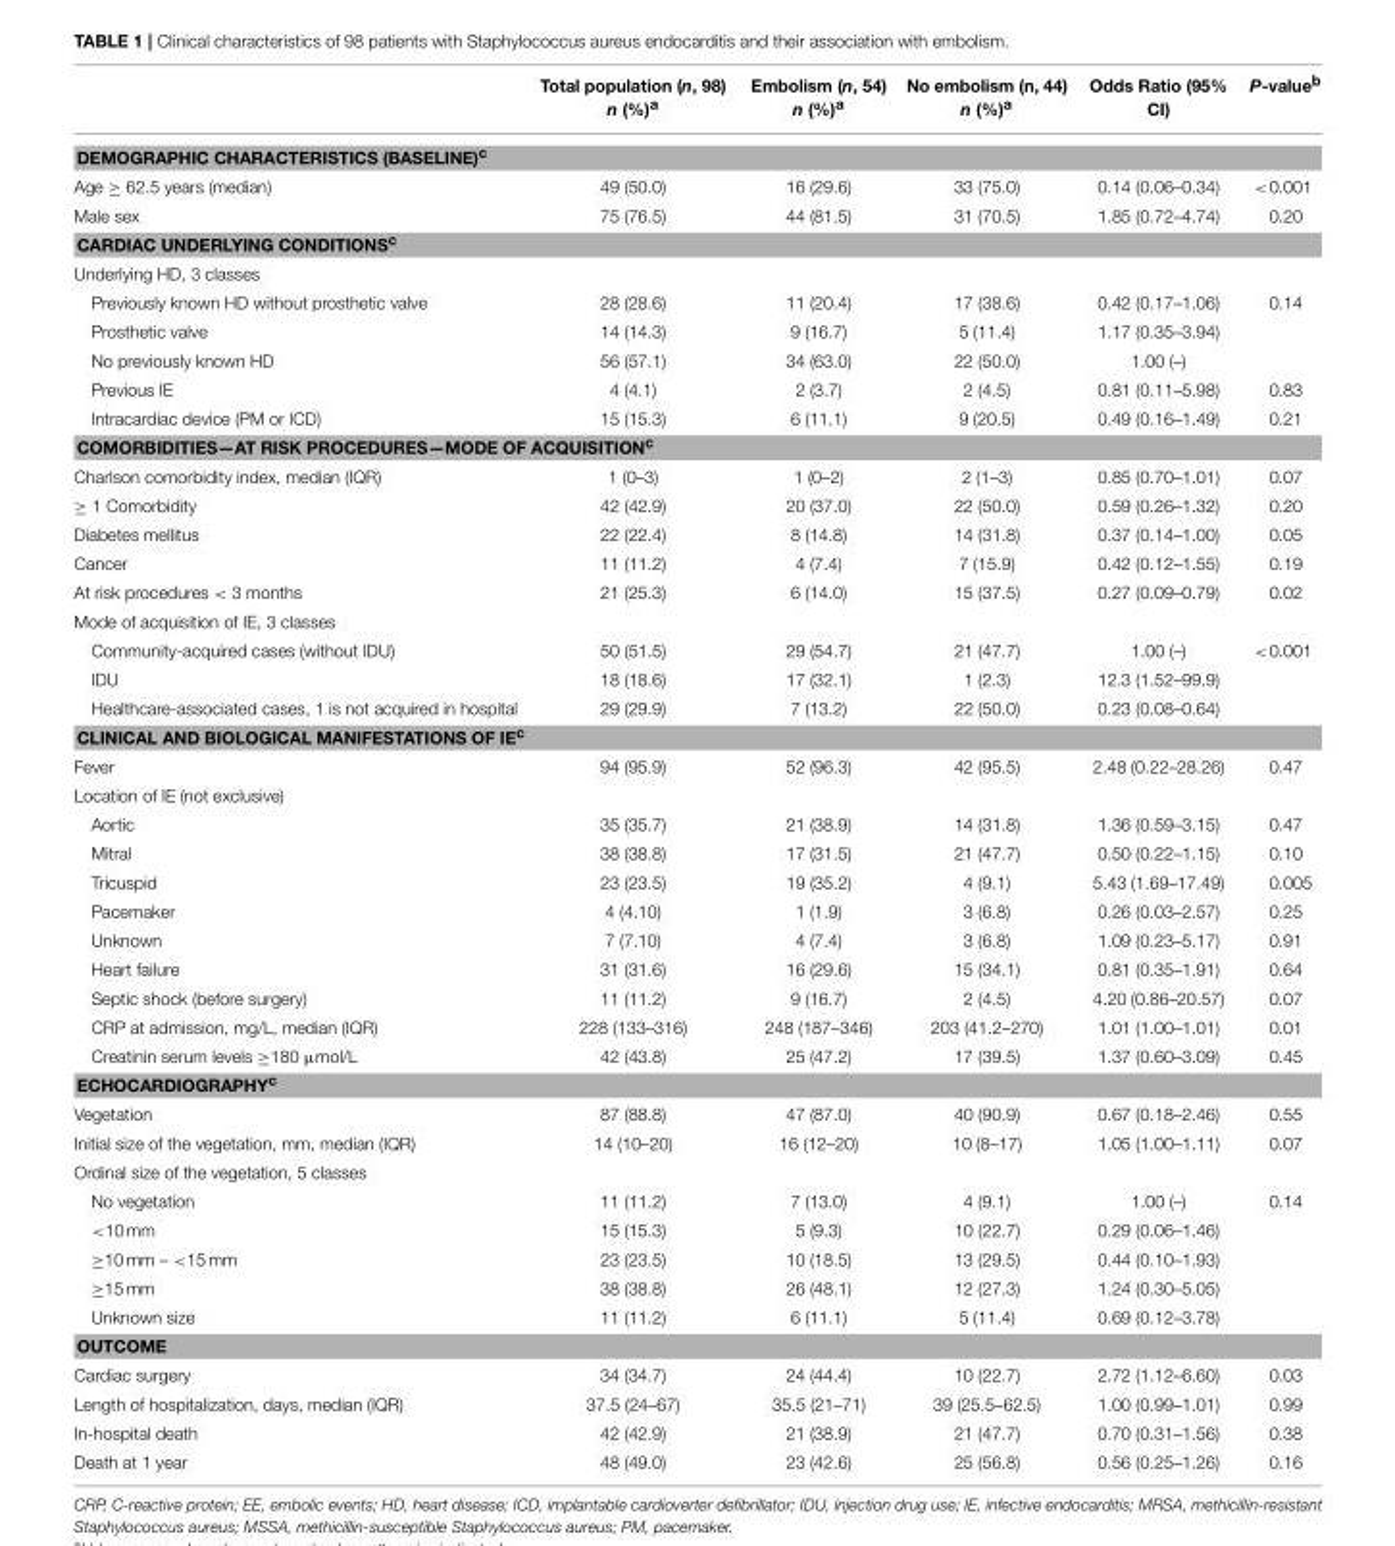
<table><thead><tr><td></td><td>Total population (n, 98) n (%)<sup>a</sup></td><td>Embolism (n, 54) n (%)<sup>a</sup></td><td>No embolism (n, 44) n (%)<sup>a</sup></td><td>Odds Ratio (95% CI)</td><td>P-value<sup>b</sup></td></tr></thead><tbody><tr><td colspan="6">DEMOGRAPHIC CHARACTERISTICS (BASELINE)<sup>c</sup></td></tr><tr><td>Age ≥ 62.5 years (median)</td><td>49 (50.0)</td><td>16 (29.6)</td><td>33 (75.0)</td><td>0.14 (0.06–0.34)</td><td>&lt;0.001</td></tr><tr><td>Male sex</td><td>75 (76.5)</td><td>44 (81.5)</td><td>31 (70.5)</td><td>1.85 (0.72–4.74)</td><td>0.20</td></tr><tr><td colspan="6">CARDIAC UNDERLYING CONDITIONS<sup>c</sup></td></tr><tr><td colspan="6">Underlying HD, 3 classes</td></tr><tr><td>Previously known HD without prosthetic valve</td><td>28 (28.6)</td><td>11 (20.4)</td><td>17 (38.6)</td><td>0.42 (0.17–1.06)</td><td>0.14</td></tr><tr><td>Prosthetic valve</td><td>14 (14.3)</td><td>9 (16.7)</td><td>5 (11.4)</td><td>1.17 (0.35–3.94)</td><td></td></tr><tr><td>No previously known HD</td><td>56 (57.1)</td><td>34 (63.0)</td><td>22 (50.0)</td><td>1.00 (–)</td><td></td></tr><tr><td>Previous IE</td><td>4 (4.1)</td><td>2 (3.7)</td><td>2 (4.5)</td><td>0.81 (0.11–5.98)</td><td>0.83</td></tr><tr><td>Intracardiac device (PM or ICD)</td><td>15 (15.3)</td><td>6 (11.1)</td><td>9 (20.5)</td><td>0.49 (0.16–1.49)</td><td>0.21</td></tr><tr><td colspan="6">COMORBIDITIES—AT RISK PROCEDURES—MODE OF ACQUISITION<sup>c</sup></td></tr><tr><td>Charlson comorbidity index, median (IQR)</td><td>1 (0–3)</td><td>1 (0–2)</td><td>2 (1–3)</td><td>0.85 (0.70–1.01)</td><td>0.07</td></tr><tr><td>≥ 1 Comorbidity</td><td>42 (42.9)</td><td>20 (37.0)</td><td>22 (50.0)</td><td>0.59 (0.26–1.32)</td><td>0.20</td></tr><tr><td>Diabetes mellitus</td><td>22 (22.4)</td><td>8 (14.8)</td><td>14 (31.8)</td><td>0.37 (0.14–1.00)</td><td>0.05</td></tr><tr><td>Cancer</td><td>11 (11.2)</td><td>4 (7.4)</td><td>7 (15.9)</td><td>0.42 (0.12–1.55)</td><td>0.19</td></tr><tr><td>At risk procedures &lt; 3 months</td><td>21 (25.3)</td><td>6 (14.0)</td><td>15 (37.5)</td><td>0.27 (0.09–0.79)</td><td>0.02</td></tr><tr><td colspan="6">Mode of acquisition of IE, 3 classes</td></tr><tr><td>Community-acquired cases (without IDU)</td><td>50 (51.5)</td><td>29 (54.7)</td><td>21 (47.7)</td><td>1.00 (–)</td><td>&lt;0.001</td></tr><tr><td>IDU</td><td>18 (18.6)</td><td>17 (32.1)</td><td>1 (2.3)</td><td>12.3 (1.52–99.9)</td><td></td></tr><tr><td>Healthcare-associated cases, 1 is not acquired in hospital</td><td>29 (29.9)</td><td>7 (13.2)</td><td>22 (50.0)</td><td>0.23 (0.08–0.64)</td><td></td></tr><tr><td colspan="6">CLINICAL AND BIOLOGICAL MANIFESTATIONS OF IE<sup>c</sup></td></tr><tr><td>Fever</td><td>94 (95.9)</td><td>52 (96.3)</td><td>42 (95.5)</td><td>2.48 (0.22–28.26)</td><td>0.47</td></tr><tr><td colspan="6">Location of IE (not exclusive)</td></tr><tr><td>Aortic</td><td>35 (35.7)</td><td>21 (38.9)</td><td>14 (31.8)</td><td>1.36 (0.59–3.15)</td><td>0.47</td></tr><tr><td>Mitral</td><td>38 (38.8)</td><td>17 (31.5)</td><td>21 (47.7)</td><td>0.50 (0.22–1.15)</td><td>0.10</td></tr><tr><td>Tricuspid</td><td>23 (23.5)</td><td>19 (35.2)</td><td>4 (9.1)</td><td>5.43 (1.69–17.49)</td><td>0.005</td></tr><tr><td>Pacemaker</td><td>4 (4.10)</td><td>1 (1.9)</td><td>3 (6.8)</td><td>0.26 (0.03–2.57)</td><td>0.25</td></tr><tr><td>Unknown</td><td>7 (7.10)</td><td>4 (7.4)</td><td>3 (6.8)</td><td>1.09 (0.23–5.17)</td><td>0.91</td></tr><tr><td>Heart failure</td><td>31 (31.6)</td><td>16 (29.6)</td><td>15 (34.1)</td><td>0.81 (0.35–1.91)</td><td>0.64</td></tr><tr><td>Septic shock (before surgery)</td><td>11 (11.2)</td><td>9 (16.7)</td><td>2 (4.5)</td><td>4.20 (0.86–20.57)</td><td>0.07</td></tr><tr><td>CRP at admission, mg/L, median (IQR)</td><td>228 (133–316)</td><td>248 (187–346)</td><td>203 (41.2–270)</td><td>1.01 (1.00–1.01)</td><td>0.01</td></tr><tr><td>Creatinin serum levels ≥180 µmol/L</td><td>42 (43.8)</td><td>25 (47.2)</td><td>17 (39.5)</td><td>1.37 (0.60–3.09)</td><td>0.45</td></tr><tr><td colspan="6">ECHOCARDIOGRAPHY<sup>c</sup></td></tr><tr><td>Vegetation</td><td>87 (88.8)</td><td>47 (87.0)</td><td>40 (90.9)</td><td>0.67 (0.18–2.46)</td><td>0.55</td></tr><tr><td>Initial size of the vegetation, mm, median (IQR)</td><td>14 (10–20)</td><td>16 (12–20)</td><td>10 (8–17)</td><td>1.05 (1.00–1.11)</td><td>0.07</td></tr><tr><td colspan="6">Ordinal size of the vegetation, 5 classes</td></tr><tr><td>No vegetation</td><td>11 (11.2)</td><td>7 (13.0)</td><td>4 (9.1)</td><td>1.00 (–)</td><td>0.14</td></tr><tr><td>&lt;10 mm</td><td>15 (15.3)</td><td>5 (9.3)</td><td>10 (22.7)</td><td>0.29 (0.06–1.46)</td><td></td></tr><tr><td>≥10 mm – &lt;15 mm</td><td>23 (23.5)</td><td>10 (18.5)</td><td>13 (29.5)</td><td>0.44 (0.10–1.93)</td><td></td></tr><tr><td>≥15 mm</td><td>38 (38.8)</td><td>26 (48.1)</td><td>12 (27.3)</td><td>1.24 (0.30–5.05)</td><td></td></tr><tr><td>Unknown size</td><td>11 (11.2)</td><td>6 (11.1)</td><td>5 (11.4)</td><td>0.69 (0.12–3.78)</td><td></td></tr><tr><td colspan="6">OUTCOME</td></tr><tr><td>Cardiac surgery</td><td>34 (34.7)</td><td>24 (44.4)</td><td>10 (22.7)</td><td>2.72 (1.12–6.60)</td><td>0.03</td></tr><tr><td>Length of hospitalization, days, median (IQR)</td><td>37.5 (24–67)</td><td>35.5 (21–71)</td><td>39 (25.5–62.5)</td><td>1.00 (0.99–1.01)</td><td>0.99</td></tr><tr><td>In-hospital death</td><td>42 (42.9)</td><td>21 (38.9)</td><td>21 (47.7)</td><td>0.70 (0.31–1.56)</td><td>0.38</td></tr><tr><td>Death at 1 year</td><td>48 (49.0)</td><td>23 (42.6)</td><td>25 (56.8)</td><td>0.56 (0.25–1.26)</td><td>0.16</td></tr></tbody></table>